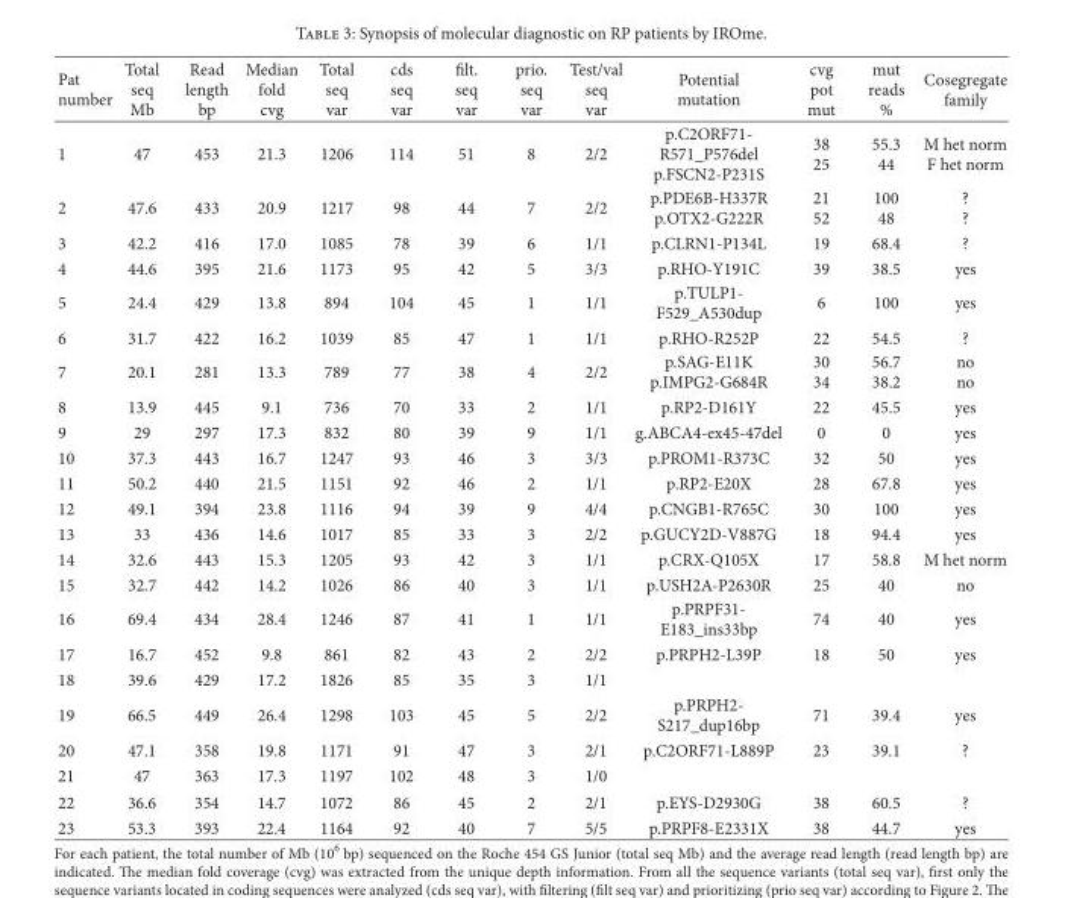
<table><thead><tr><td>Pat number</td><td>Total seq Mb</td><td>Read length bp</td><td>Median fold cvg</td><td>Total seq var</td><td>cds seq var</td><td>�lt. seq var</td><td>prio. seq var</td><td>Test/val seq var</td><td>Potential mutation</td><td>cvg pot mut</td><td>mut reads %</td><td>Cosegregate family</td></tr></thead><tbody><tr><td>1</td><td>47</td><td>453</td><td>21.3</td><td>1206</td><td>114</td><td>51</td><td>8</td><td>2/2</td><td>p.C2ORF71- R571_P576del p.FSCN2-P231S</td><td>38 25</td><td>55.3 44</td><td>M het norm F het norm</td></tr><tr><td>2</td><td>47.6</td><td>433</td><td>20.9</td><td>1217</td><td>98</td><td>44</td><td>7</td><td>2/2</td><td>p.PDE6B-H337R p.OTX2-G222R</td><td>21 52</td><td>100 48</td><td>? ?</td></tr><tr><td>3</td><td>42.2</td><td>416</td><td>17.0</td><td>1085</td><td>78</td><td>39</td><td>6</td><td>1/1</td><td>p.CLRN1-P134L</td><td>19</td><td>68.4</td><td>?</td></tr><tr><td>4</td><td>44.6</td><td>395</td><td>21.6</td><td>1173</td><td>95</td><td>42</td><td>5</td><td>3/3</td><td>p.RHO-Y191C</td><td>39</td><td>38.5</td><td>yes</td></tr><tr><td>5</td><td>24.4</td><td>429</td><td>13.8</td><td>894</td><td>104</td><td>45</td><td>1</td><td>1/1</td><td>p.TULP1- F529_A530dup</td><td>6</td><td>100</td><td>yes</td></tr><tr><td>6</td><td>31.7</td><td>422</td><td>16.2</td><td>1039</td><td>85</td><td>47</td><td>1</td><td>1/1</td><td>p.RHO-R252P</td><td>22</td><td>54.5</td><td>?</td></tr><tr><td>7</td><td>20.1</td><td>281</td><td>13.3</td><td>789</td><td>77</td><td>38</td><td>4</td><td>2/2</td><td>p.SAG-E11K p.IMPG2-G684R</td><td>30 34</td><td>56.7 38.2</td><td>no no</td></tr><tr><td>8</td><td>13.9</td><td>445</td><td>9.1</td><td>736</td><td>70</td><td>33</td><td>2</td><td>1/1</td><td>p.RP2-D161Y</td><td>22</td><td>45.5</td><td>yes</td></tr><tr><td>9</td><td>29</td><td>297</td><td>17.3</td><td>832</td><td>80</td><td>39</td><td>9</td><td>1/1</td><td>g.ABCA4-ex45-47del</td><td>0</td><td>0</td><td>yes</td></tr><tr><td>10</td><td>37.3</td><td>443</td><td>16.7</td><td>1247</td><td>93</td><td>46</td><td>3</td><td>3/3</td><td>p.PROM1-R373C</td><td>32</td><td>50</td><td>yes</td></tr><tr><td>11</td><td>50.2</td><td>440</td><td>21.5</td><td>1151</td><td>92</td><td>46</td><td>2</td><td>1/1</td><td>p.RP2-E20X</td><td>28</td><td>67.8</td><td>yes</td></tr><tr><td>12</td><td>49.1</td><td>394</td><td>23.8</td><td>1116</td><td>94</td><td>39</td><td>9</td><td>4/4</td><td>p.CNGB1-R765C</td><td>30</td><td>100</td><td>yes</td></tr><tr><td>13</td><td>33</td><td>436</td><td>14.6</td><td>1017</td><td>85</td><td>33</td><td>3</td><td>2/2</td><td>p.GUCY2D-V887G</td><td>18</td><td>94.4</td><td>yes</td></tr><tr><td>14</td><td>32.6</td><td>443</td><td>15.3</td><td>1205</td><td>93</td><td>42</td><td>3</td><td>1/1</td><td>p.CRX-Q105X</td><td>17</td><td>58.8</td><td>M het norm</td></tr><tr><td>15</td><td>32.7</td><td>442</td><td>14.2</td><td>1026</td><td>86</td><td>40</td><td>3</td><td>1/1</td><td>p.USH2A-P2630R</td><td>25</td><td>40</td><td>no</td></tr><tr><td>16</td><td>69.4</td><td>434</td><td>28.4</td><td>1246</td><td>87</td><td>41</td><td>1</td><td>1/1</td><td>p.PRPF31- E183_ins33bp</td><td>74</td><td>40</td><td>yes</td></tr><tr><td>17</td><td>16.7</td><td>452</td><td>9.8</td><td>861</td><td>82</td><td>43</td><td>2</td><td>2/2</td><td>p.PRPH2-L39P</td><td>18</td><td>50</td><td>yes</td></tr><tr><td>18</td><td>39.6</td><td>429</td><td>17.2</td><td>1826</td><td>85</td><td>35</td><td>3</td><td>1/1</td><td></td><td></td><td></td><td></td></tr><tr><td>19</td><td>66.5</td><td>449</td><td>26.4</td><td>1298</td><td>103</td><td>45</td><td>5</td><td>2/2</td><td>p.PRPH2- S217_dup16bp</td><td>71</td><td>39.4</td><td>yes</td></tr><tr><td>20</td><td>47.1</td><td>358</td><td>19.8</td><td>1171</td><td>91</td><td>47</td><td>3</td><td>2/1</td><td>p.C2ORF71-L889P</td><td>23</td><td>39.1</td><td>?</td></tr><tr><td>21</td><td>47</td><td>363</td><td>17.3</td><td>1197</td><td>102</td><td>48</td><td>3</td><td>1/0</td><td></td><td></td><td></td><td></td></tr><tr><td>22</td><td>36.6</td><td>354</td><td>14.7</td><td>1072</td><td>86</td><td>45</td><td>2</td><td>2/1</td><td>p.EYS-D2930G</td><td>38</td><td>60.5</td><td>?</td></tr><tr><td>23</td><td>53.3</td><td>393</td><td>22.4</td><td>1164</td><td>92</td><td>40</td><td>7</td><td>5/5</td><td>p.PRPF8-E2331X</td><td>38</td><td>44.7</td><td>yes</td></tr></tbody></table>